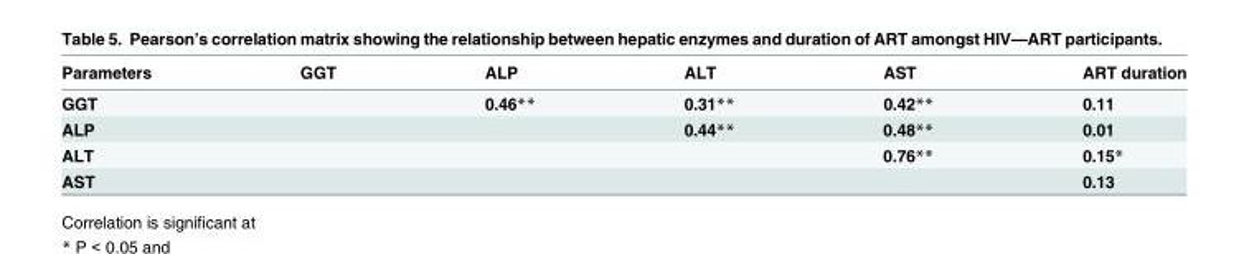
<table><thead><tr><td>Parameters</td><td>GGT</td><td>ALP</td><td>ALT</td><td>AST</td><td>ART duration</td></tr></thead><tbody><tr><td>GGT</td><td></td><td>0.46**</td><td>0.31**</td><td>0.42**</td><td>0.11</td></tr><tr><td>ALP</td><td></td><td></td><td>0.44**</td><td>0.48**</td><td>0.01</td></tr><tr><td>ALT</td><td></td><td></td><td></td><td>0.76**</td><td>0.15*</td></tr><tr><td>AST</td><td></td><td></td><td></td><td></td><td>0.13</td></tr></tbody></table>